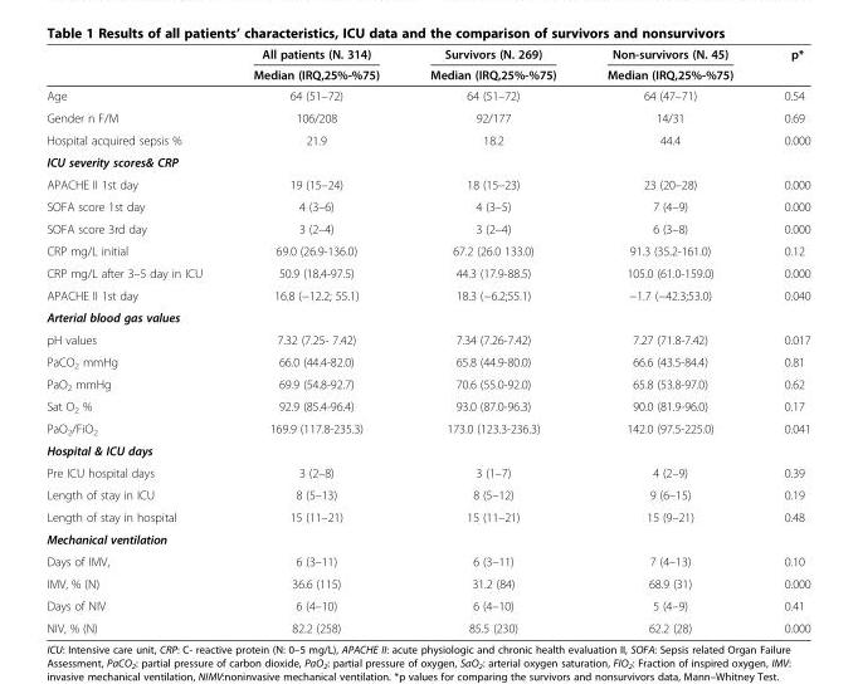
<table><thead><tr><td rowspan="2"></td><td rowspan="2">All patients (N. 314) Median (IRQ,25%-%75)</td><td rowspan="2">Survivors (N. 269) Median (IRQ,25%-%75)</td><td rowspan="2">Non-survivors (N. 45) Median (IRQ,25%-%75)</td><td rowspan="2">p*</td></tr><tr></tr></thead><tbody><tr><td>Age</td><td>64 (51–72)</td><td>64 (51–72)</td><td>64 (47–71)</td><td>0.54</td></tr><tr><td>Gender n F/M</td><td>106/208</td><td>92/177</td><td>14/31</td><td>0.69</td></tr><tr><td>Hospital acquired sepsis %</td><td>21.9</td><td>18.2</td><td>44.4</td><td>0.000</td></tr><tr><td colspan="5">ICU severity scores&amp; CRP</td></tr><tr><td>APACHE II 1st day</td><td>19 (15–24)</td><td>18 (15–23)</td><td>23 (20–28)</td><td>0.000</td></tr><tr><td>SOFA score 1st day</td><td>4 (3–6)</td><td>4 (3–5)</td><td>7 (4–9)</td><td>0.000</td></tr><tr><td>SOFA score 3rd day</td><td>3 (2–4)</td><td>3 (2–4)</td><td>6 (3–8)</td><td>0.000</td></tr><tr><td>CRP mg/L initial</td><td>69.0 (26.9-136.0)</td><td>67.2 (26.0 133.0)</td><td>91.3 (35.2-161.0)</td><td>0.12</td></tr><tr><td>CRP mg/L after 3–5 day in ICU</td><td>50.9 (18.4-97.5)</td><td>44.3 (17.9-88.5)</td><td>105.0 (61.0-159.0)</td><td>0.000</td></tr><tr><td>APACHE II 1st day</td><td>16.8 (−12.2; 55.1)</td><td>18.3 (−6.2;55.1)</td><td>−1.7 (−42.3;53.0)</td><td>0.040</td></tr><tr><td colspan="5">Arterial blood gas values</td></tr><tr><td>pH values</td><td>7.32 (7.25- 7.42)</td><td>7.34 (7.26-7.42)</td><td>7.27 (71.8-7.42)</td><td>0.017</td></tr><tr><td>PaCO<sub>2</sub> mmHg</td><td>66.0 (44.4-82.0)</td><td>65.8 (44.9-80.0)</td><td>66.6 (43.5-84.4)</td><td>0.81</td></tr><tr><td>PaO<sub>2</sub> mmHg</td><td>69.9 (54.8-92.7)</td><td>70.6 (55.0-92.0)</td><td>65.8 (53.8-97.0)</td><td>0.62</td></tr><tr><td>Sat O<sub>2</sub> %</td><td>92.9 (85.4-96.4)</td><td>93.0 (87.0-96.3)</td><td>90.0 (81.9-96.0)</td><td>0.17</td></tr><tr><td>PaO<sub>2</sub>/FiO<sub>2</sub></td><td>169.9 (117.8-235.3)</td><td>173.0 (123.3-236.3)</td><td>142.0 (97.5-225.0)</td><td>0.041</td></tr><tr><td colspan="5">Hospital &amp; ICU days</td></tr><tr><td>Pre ICU hospital days</td><td>3 (2–8)</td><td>3 (1–7)</td><td>4 (2–9)</td><td>0.39</td></tr><tr><td>Length of stay in ICU</td><td>8 (5–13)</td><td>8 (5–12)</td><td>9 (6–15)</td><td>0.19</td></tr><tr><td>Length of stay in hospital</td><td>15 (11–21)</td><td>15 (11–21)</td><td>15 (9–21)</td><td>0.48</td></tr><tr><td colspan="5">Mechanical ventilation</td></tr><tr><td>Days of IMV,</td><td>6 (3–11)</td><td>6 (3–11)</td><td>7 (4–13)</td><td>0.10</td></tr><tr><td>IMV, % (N)</td><td>36.6 (115)</td><td>31.2 (84)</td><td>68.9 (31)</td><td>0.000</td></tr><tr><td>Days of NIV</td><td>6 (4–10)</td><td>6 (4–10)</td><td>5 (4–9)</td><td>0.41</td></tr><tr><td>NIV, % (N)</td><td>82.2 (258)</td><td>85.5 (230)</td><td>62.2 (28)</td><td>0.000</td></tr></tbody></table>